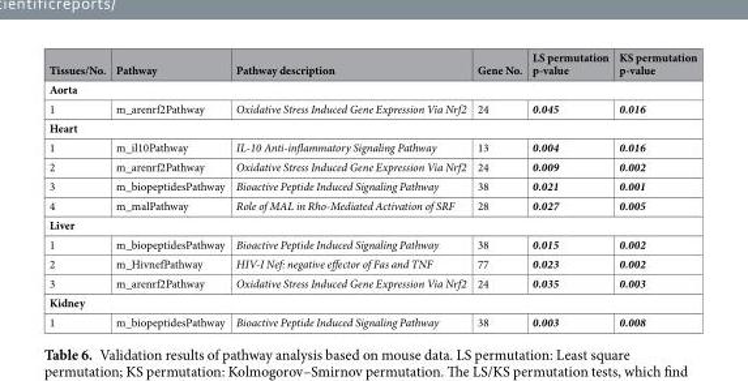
<table><thead><tr><td>Tissues/No.</td><td>Pathway</td><td>Pathway description</td><td>Gene No.</td><td>LS permutation p-value</td><td>KS permutation p-value</td></tr></thead><tbody><tr><td colspan="6">Aorta</td></tr><tr><td>1</td><td>m_arenrf2Pathway</td><td>Oxidative Stress Induced Gene Expression Via Nrf2</td><td>24</td><td>0.045</td><td>0.016</td></tr><tr><td colspan="6">Heart</td></tr><tr><td>1</td><td>m_il10Pathway</td><td>IL-10 Anti-inflammatory Signaling Pathway</td><td>13</td><td>0.004</td><td>0.016</td></tr><tr><td>2</td><td>m_arenrf2Pathway</td><td>Oxidative Stress Induced Gene Expression Via Nrf2</td><td>24</td><td>0.009</td><td>0.002</td></tr><tr><td>3</td><td>m_biopeptidesPathway</td><td>Bioactive Peptide Induced Signaling Pathway</td><td>38</td><td>0.021</td><td>0.001</td></tr><tr><td>4</td><td>m_malPathway</td><td>Role of MAL in Rho-Mediated Activation of SRF</td><td>28</td><td>0.027</td><td>0.005</td></tr><tr><td colspan="6">Liver</td></tr><tr><td>1</td><td>m_biopeptidesPathway</td><td>Bioactive Peptide Induced Signaling Pathway</td><td>38</td><td>0.015</td><td>0.002</td></tr><tr><td>2</td><td>m_HivnefPathway</td><td>HIV-I Nef: negative effector of Fas and TNF</td><td>77</td><td>0.023</td><td>0.002</td></tr><tr><td>3</td><td>m_arenrf2Pathway</td><td>Oxidative Stress Induced Gene Expression Via Nrf2</td><td>24</td><td>0.035</td><td>0.003</td></tr><tr><td colspan="6">Kidney</td></tr><tr><td>1</td><td>m_biopeptidesPathway</td><td>Bioactive Peptide Induced Signaling Pathway</td><td>38</td><td>0.003</td><td>0.008</td></tr></tbody></table>